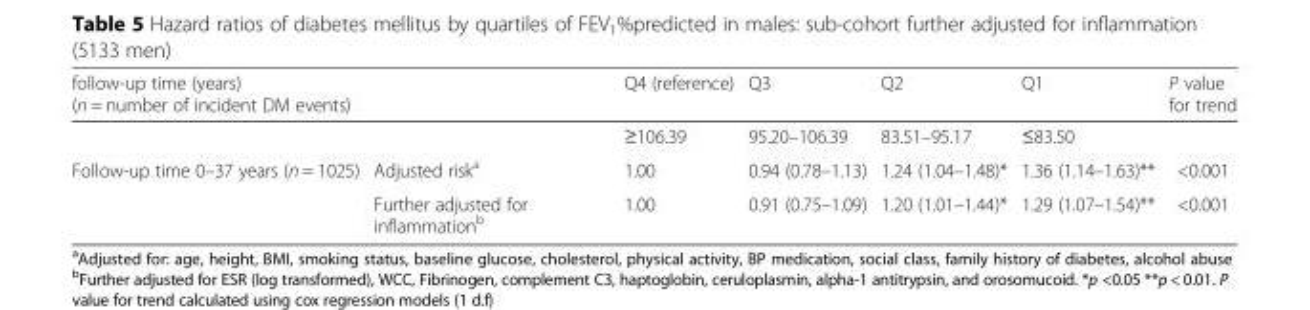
<table><thead><tr><td>follow-up time (years) (n = number of incident DM events)</td><td></td><td>Q4 (reference)</td><td>Q3</td><td>Q2</td><td>Q1</td><td>P value for trend</td></tr></thead><tbody><tr><td></td><td></td><td>≥106.39</td><td>95.20–106.39</td><td>83.51–95.17</td><td>≤83.50</td><td></td></tr><tr><td rowspan="2">Follow-up time 0–37 years (n = 1025)</td><td>Adjusted risk<sup>a</sup></td><td>1.00</td><td>0.94 (0.78–1.13)</td><td>1.24 (1.04–1.48)*</td><td>1.36 (1.14–1.63)**</td><td>&lt;0.001</td></tr><tr><td>Further adjusted for inflammation<sup>b</sup></td><td>1.00</td><td>0.91 (0.75–1.09)</td><td>1.20 (1.01–1.44)*</td><td>1.29 (1.07–1.54)**</td><td>&lt;0.001</td></tr></tbody></table>